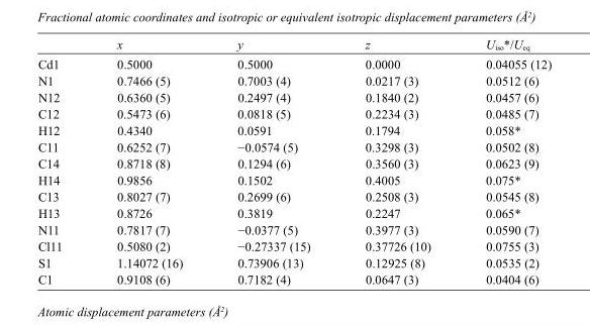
<table><thead><tr><td></td><td>x</td><td>y</td><td>z</td><td>U<sub>iso</sub>*/U<sub>eq</sub></td></tr></thead><tbody><tr><td>Cd1</td><td>0.5000</td><td>0.5000</td><td>0.0000</td><td>0.04055 (12)</td></tr><tr><td>N1</td><td>0.7466 (5)</td><td>0.7003 (4)</td><td>0.0217 (3)</td><td>0.0512 (6)</td></tr><tr><td>N12</td><td>0.6360 (5)</td><td>0.2497 (4)</td><td>0.1840 (2)</td><td>0.0457 (6)</td></tr><tr><td>C12</td><td>0.5473 (6)</td><td>0.0818 (5)</td><td>0.2234 (3)</td><td>0.0485 (7)</td></tr><tr><td>H12</td><td>0.4340</td><td>0.0591</td><td>0.1794</td><td>0.058*</td></tr><tr><td>C11</td><td>0.6252 (7)</td><td>−0.0574 (5)</td><td>0.3298 (3)</td><td>0.0502 (8)</td></tr><tr><td>C14</td><td>0.8718 (8)</td><td>0.1294 (6)</td><td>0.3560 (3)</td><td>0.0623 (9)</td></tr><tr><td>H14</td><td>0.9856</td><td>0.1502</td><td>0.4005</td><td>0.075*</td></tr><tr><td>C13</td><td>0.8027 (7)</td><td>0.2699 (6)</td><td>0.2508 (3)</td><td>0.0545 (8)</td></tr><tr><td>H13</td><td>0.8726</td><td>0.3819</td><td>0.2247</td><td>0.065*</td></tr><tr><td>N11</td><td>0.7817 (7)</td><td>−0.0377 (5)</td><td>0.3977 (3)</td><td>0.0590 (7)</td></tr><tr><td>Cl11</td><td>0.5080 (2)</td><td>−0.27337 (15)</td><td>0.37726 (10)</td><td>0.0755 (3)</td></tr><tr><td>S1</td><td>1.14072 (16)</td><td>0.73906 (13)</td><td>0.12925 (8)</td><td>0.0535 (2)</td></tr><tr><td>C1</td><td>0.9108 (6)</td><td>0.7182 (4)</td><td>0.0647 (3)</td><td>0.0404 (6)</td></tr></tbody></table>